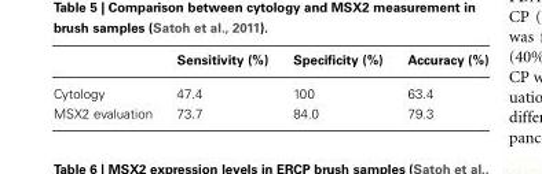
<table><thead><tr><td></td><td>Sensitivity (%)</td><td>Specificity (%)</td><td>Accuracy (%)</td></tr></thead><tbody><tr><td>Cytology</td><td>47.4</td><td>100</td><td>63.4</td></tr><tr><td>MSX2 evaluation</td><td>73.7</td><td>84.0</td><td>79.3</td></tr></tbody></table>